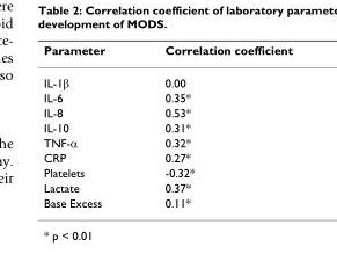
<table><thead><tr><td>Parameter</td><td>Correlation coefficient</td></tr></thead><tbody><tr><td>IL-1β</td><td>0.00</td></tr><tr><td>IL-6</td><td>0.35*</td></tr><tr><td>IL-8</td><td>0.53*</td></tr><tr><td>IL-10</td><td>0.31*</td></tr><tr><td>TNF-α</td><td>0.32*</td></tr><tr><td>CRP</td><td>0.27*</td></tr><tr><td>Platelets</td><td>-0.32*</td></tr><tr><td>Lactate</td><td>0.37*</td></tr><tr><td>Base Excess</td><td>0.11*</td></tr></tbody></table>